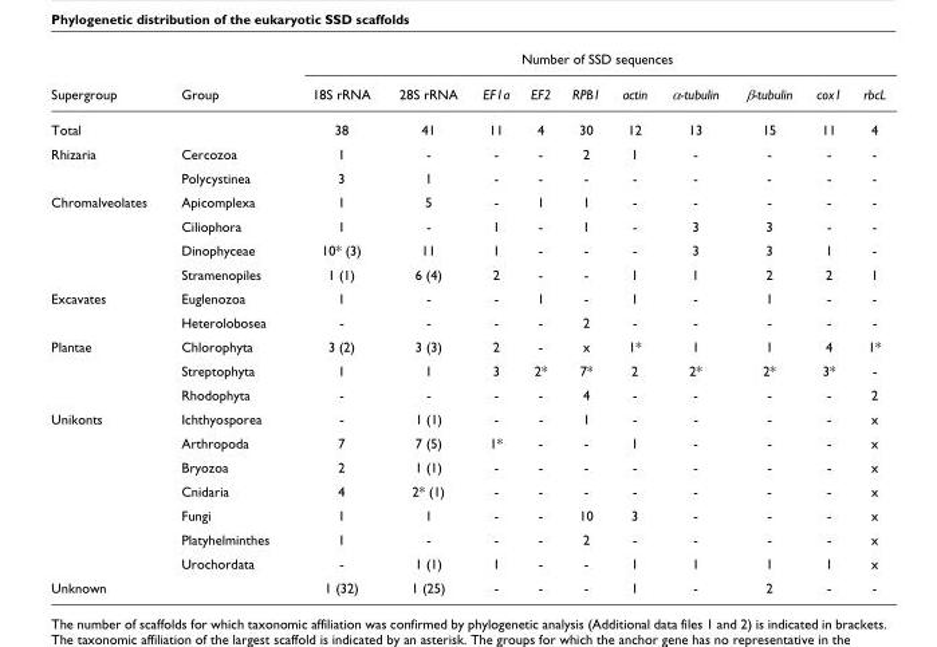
<table><thead><tr><td rowspan="2">Supergroup</td><td rowspan="2">Group</td><td colspan="10">Number of SSD sequences</td></tr><tr><td>18S rRNA</td><td>28S rRNA</td><td>EF1a</td><td>EF2</td><td>RPB1</td><td>actin</td><td>α-tubulin</td><td>β-tubulin</td><td>cox1</td><td>rbcL</td></tr></thead><tbody><tr><td>Total</td><td></td><td>38</td><td>41</td><td>11</td><td>4</td><td>30</td><td>12</td><td>13</td><td>15</td><td>11</td><td>4</td></tr><tr><td rowspan="2">Rhizaria</td><td>Cercozoa</td><td>1</td><td>-</td><td>-</td><td>-</td><td>2</td><td>1</td><td>-</td><td>-</td><td>-</td><td>-</td></tr><tr><td>Polycystinea</td><td>3</td><td>1</td><td>-</td><td>-</td><td>-</td><td>-</td><td>-</td><td>-</td><td>-</td><td>-</td></tr><tr><td rowspan="4">Chromalveolates</td><td>Apicomplexa</td><td>1</td><td>5</td><td>-</td><td>1</td><td>1</td><td>-</td><td>-</td><td>-</td><td>-</td><td>-</td></tr><tr><td>Ciliophora</td><td>1</td><td>-</td><td>1</td><td>-</td><td>1</td><td>-</td><td>3</td><td>3</td><td>-</td><td>-</td></tr><tr><td>Dinophyceae</td><td>10* (3)</td><td>11</td><td>1</td><td>-</td><td>-</td><td>-</td><td>3</td><td>3</td><td>1</td><td>-</td></tr><tr><td>Stramenopiles</td><td>1 (1)</td><td>6 (4)</td><td>2</td><td>-</td><td>-</td><td>1</td><td>1</td><td>2</td><td>2</td><td>1</td></tr><tr><td rowspan="2">Excavates</td><td>Euglenozoa</td><td>1</td><td>-</td><td>-</td><td>1</td><td>-</td><td>1</td><td>-</td><td>1</td><td>-</td><td>-</td></tr><tr><td>Heterolobosea</td><td>-</td><td>-</td><td>-</td><td>-</td><td>2</td><td>-</td><td>-</td><td>-</td><td>-</td><td>-</td></tr><tr><td rowspan="3">Plantae</td><td>Chlorophyta</td><td>3 (2)</td><td>3 (3)</td><td>2</td><td>-</td><td>x</td><td>1*</td><td>1</td><td>1</td><td>4</td><td>1*</td></tr><tr><td>Streptophyta</td><td>1</td><td>1</td><td>3</td><td>2*</td><td>7*</td><td>2</td><td>2*</td><td>2*</td><td>3*</td><td>-</td></tr><tr><td>Rhodophyta</td><td>-</td><td>-</td><td>-</td><td>-</td><td>4</td><td>-</td><td>-</td><td>-</td><td>-</td><td>2</td></tr><tr><td rowspan="7">Unikonts</td><td>Ichthyosporea</td><td>-</td><td>1 (1)</td><td>-</td><td>-</td><td>1</td><td>-</td><td>-</td><td>-</td><td>-</td><td>x</td></tr><tr><td>Arthropoda</td><td>7</td><td>7 (5)</td><td>1*</td><td>-</td><td>-</td><td>1</td><td>-</td><td>-</td><td>-</td><td>x</td></tr><tr><td>Bryozoa</td><td>2</td><td>1 (1)</td><td>-</td><td>-</td><td>-</td><td>-</td><td>-</td><td>-</td><td>-</td><td>x</td></tr><tr><td>Cnidaria</td><td>4</td><td>2* (1)</td><td>-</td><td>-</td><td>-</td><td>-</td><td>-</td><td>-</td><td>-</td><td>x</td></tr><tr><td>Fungi</td><td>1</td><td>1</td><td>-</td><td>-</td><td>10</td><td>3</td><td>-</td><td>-</td><td>-</td><td>x</td></tr><tr><td>Platyhelminthes</td><td>1</td><td>-</td><td>-</td><td>-</td><td>2</td><td>-</td><td>-</td><td>-</td><td>-</td><td>x</td></tr><tr><td>Urochordata</td><td>-</td><td>1 (1)</td><td>1</td><td>-</td><td>-</td><td>1</td><td>1</td><td>1</td><td>1</td><td>x</td></tr><tr><td>Unknown</td><td></td><td>1 (32)</td><td>1 (25)</td><td>-</td><td>-</td><td>-</td><td>1</td><td>-</td><td>2</td><td>-</td><td>-</td></tr></tbody></table>